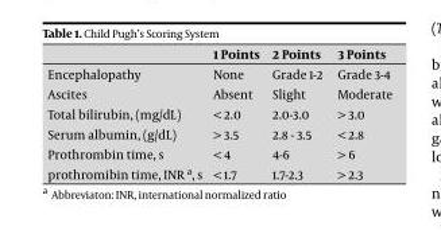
<table><thead><tr><td></td><td>1 Points</td><td>2 Points</td><td>3 Points</td></tr></thead><tbody><tr><td>Encephalopathy</td><td>None</td><td>Grade 1-2</td><td>Grade 3-4</td></tr><tr><td>Ascites</td><td>Absent</td><td>Slight</td><td>Moderate</td></tr><tr><td>Total bilirubin, (mg/dL)</td><td>&lt; 2.0</td><td>2.0-3.0</td><td>&gt; 3.0</td></tr><tr><td>Serum albumin, (g/dL)</td><td>&gt; 3.5</td><td>2.8 - 3.5</td><td>&lt; 2.8</td></tr><tr><td>Prothrombin time, s</td><td>&lt; 4</td><td>4-6</td><td>&gt; 6</td></tr><tr><td>prothromibin time, INR a, s</td><td>&lt; 1.7</td><td>1.7-2.3</td><td>&gt; 2.3</td></tr></tbody></table>